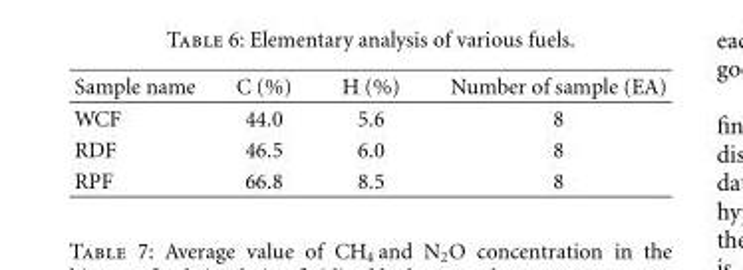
<table><thead><tr><td>Sample name</td><td>C (%)</td><td>H (%)</td><td>Number of sample (EA)</td></tr></thead><tbody><tr><td>WCF</td><td>44.0</td><td>5.6</td><td>8</td></tr><tr><td>RDF</td><td>46.5</td><td>6.0</td><td>8</td></tr><tr><td>RPF</td><td>66.8</td><td>8.5</td><td>8</td></tr></tbody></table>